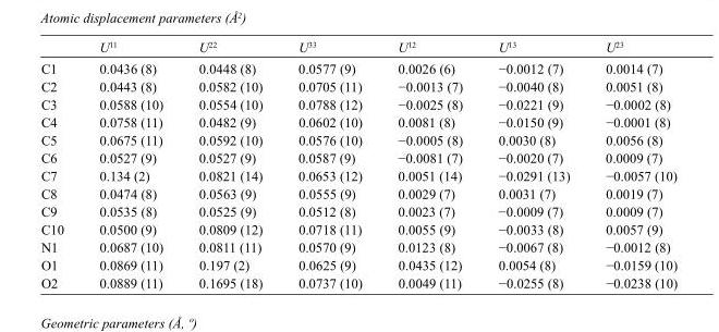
<table><thead><tr><td></td><td>U<sup>11</sup></td><td>U<sup>22</sup></td><td>U<sup>33</sup></td><td>U<sup>12</sup></td><td>U<sup>13</sup></td><td>U<sup>23</sup></td></tr></thead><tbody><tr><td>C1</td><td>0.0436 (8)</td><td>0.0448 (8)</td><td>0.0577 (9)</td><td>0.0026 (6)</td><td>−0.0012 (7)</td><td>0.0014 (7)</td></tr><tr><td>C2</td><td>0.0443 (8)</td><td>0.0582 (10)</td><td>0.0705 (11)</td><td>−0.0013 (7)</td><td>−0.0040 (8)</td><td>0.0051 (8)</td></tr><tr><td>C3</td><td>0.0588 (10)</td><td>0.0554 (10)</td><td>0.0788 (12)</td><td>−0.0025 (8)</td><td>−0.0221 (9)</td><td>−0.0002 (8)</td></tr><tr><td>C4</td><td>0.0758 (11)</td><td>0.0482 (9)</td><td>0.0602 (10)</td><td>0.0081 (8)</td><td>−0.0150 (9)</td><td>−0.0001 (8)</td></tr><tr><td>C5</td><td>0.0675 (11)</td><td>0.0592 (10)</td><td>0.0576 (10)</td><td>−0.0005 (8)</td><td>0.0030 (8)</td><td>0.0056 (8)</td></tr><tr><td>C6</td><td>0.0527 (9)</td><td>0.0527 (9)</td><td>0.0587 (9)</td><td>−0.0081 (7)</td><td>−0.0020 (7)</td><td>0.0009 (7)</td></tr><tr><td>C7</td><td>0.134 (2)</td><td>0.0821 (14)</td><td>0.0653 (12)</td><td>0.0051 (14)</td><td>−0.0291 (13)</td><td>−0.0057 (10)</td></tr><tr><td>C8</td><td>0.0474 (8)</td><td>0.0563 (9)</td><td>0.0555 (9)</td><td>0.0029 (7)</td><td>0.0031 (7)</td><td>0.0019 (7)</td></tr><tr><td>C9</td><td>0.0535 (8)</td><td>0.0525 (9)</td><td>0.0512 (8)</td><td>0.0023 (7)</td><td>−0.0009 (7)</td><td>0.0009 (7)</td></tr><tr><td>C10</td><td>0.0500 (9)</td><td>0.0809 (12)</td><td>0.0718 (11)</td><td>0.0055 (9)</td><td>−0.0033 (8)</td><td>0.0057 (9)</td></tr><tr><td>N1</td><td>0.0687 (10)</td><td>0.0811 (11)</td><td>0.0570 (9)</td><td>0.0123 (8)</td><td>−0.0067 (8)</td><td>−0.0012 (8)</td></tr><tr><td>O1</td><td>0.0869 (11)</td><td>0.197 (2)</td><td>0.0625 (9)</td><td>0.0435 (12)</td><td>0.0054 (8)</td><td>−0.0159 (10)</td></tr><tr><td>O2</td><td>0.0889 (11)</td><td>0.1695 (18)</td><td>0.0737 (10)</td><td>0.0049 (11)</td><td>−0.0255 (8)</td><td>−0.0238 (10)</td></tr></tbody></table>